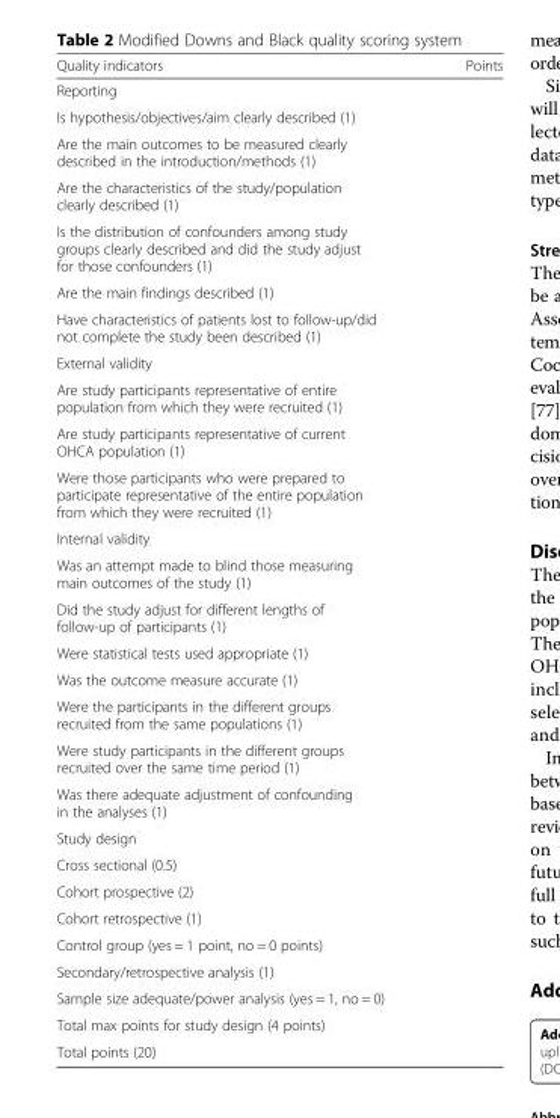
<table><thead><tr><td>Quality indicators</td><td>Points</td></tr></thead><tbody><tr><td colspan="2">Reporting</td></tr><tr><td colspan="2">Is hypothesis/objectives/aim clearly described (1)</td></tr><tr><td colspan="2">Are the main outcomes to be measured clearly described in the introduction/methods (1)</td></tr><tr><td colspan="2">Are the characteristics of the study/population clearly described (1)</td></tr><tr><td colspan="2">Is the distribution of confounders among study groups clearly described and did the study adjust for those confounders (1)</td></tr><tr><td colspan="2">Are the main findings described (1)</td></tr><tr><td colspan="2">Have characteristics of patients lost to follow-up/did not complete the study been described (1)</td></tr><tr><td colspan="2">External validity</td></tr><tr><td colspan="2">Are study participants representative of entire population from which they were recruited (1)</td></tr><tr><td colspan="2">Are study participants representative of current OHCA population (1)</td></tr><tr><td colspan="2">Were those participants who were prepared to participate representative of the entire population from which they were recruited (1)</td></tr><tr><td colspan="2">Internal validity</td></tr><tr><td colspan="2">Was an attempt made to blind those measuring main outcomes of the study (1)</td></tr><tr><td colspan="2">Did the study adjust for different lengths of follow-up of participants (1)</td></tr><tr><td colspan="2">Were statistical tests used appropriate (1)</td></tr><tr><td colspan="2">Was the outcome measure accurate (1)</td></tr><tr><td colspan="2">Were the participants in the different groups recruited from the same populations (1)</td></tr><tr><td colspan="2">Were study participants in the different groups recruited over the same time period (1)</td></tr><tr><td colspan="2">Was there adequate adjustment of confounding in the analyses (1)</td></tr><tr><td colspan="2">Study design</td></tr><tr><td colspan="2">Cross sectional (0.5)</td></tr><tr><td colspan="2">Cohort prospective (2)</td></tr><tr><td colspan="2">Cohort retrospective (1)</td></tr><tr><td colspan="2">Control group (yes = 1 point, no = 0 points)</td></tr><tr><td colspan="2">Secondary/retrospective analysis (1)</td></tr><tr><td colspan="2">Sample size adequate/power analysis (yes = 1, no = 0)</td></tr><tr><td colspan="2">Total max points for study design (4 points)</td></tr><tr><td>Total points (20)</td><td></td></tr></tbody></table>